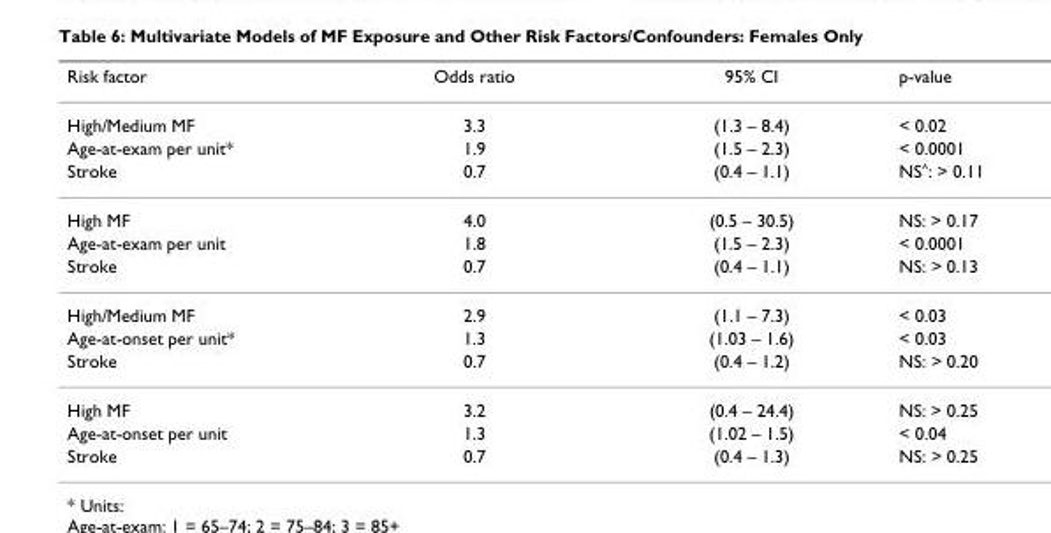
<table><thead><tr><td>Risk factor</td><td>Odds ratio</td><td>95% CI</td><td>p-value</td></tr></thead><tbody><tr><td>High/Medium MF</td><td>3.3</td><td>(1.3 – 8.4)</td><td>&lt; 0.02</td></tr><tr><td>Age-at-exam per unit*</td><td>1.9</td><td>(1.5 – 2.3)</td><td>&lt; 0.0001</td></tr><tr><td>Stroke</td><td>0.7</td><td>(0.4 – 1.1)</td><td>NS<sup>^</sup>: &gt; 0.11</td></tr><tr><td>High MF</td><td>4.0</td><td>(0.5 – 30.5)</td><td>NS: &gt; 0.17</td></tr><tr><td>Age-at-exam per unit</td><td>1.8</td><td>(1.5 – 2.3)</td><td>&lt; 0.0001</td></tr><tr><td>Stroke</td><td>0.7</td><td>(0.4 – 1.1)</td><td>NS: &gt; 0.13</td></tr><tr><td>High/Medium MF</td><td>2.9</td><td>(1.1 – 7.3)</td><td>&lt; 0.03</td></tr><tr><td>Age-at-onset per unit*</td><td>1.3</td><td>(1.03 – 1.6)</td><td>&lt; 0.03</td></tr><tr><td>Stroke</td><td>0.7</td><td>(0.4 – 1.2)</td><td>NS: &gt; 0.20</td></tr><tr><td>High MF</td><td>3.2</td><td>(0.4 – 24.4)</td><td>NS: &gt; 0.25</td></tr><tr><td>Age-at-onset per unit</td><td>1.3</td><td>(1.02 – 1.5)</td><td>&lt; 0.04</td></tr><tr><td>Stroke</td><td>0.7</td><td>(0.4 – 1.3)</td><td>NS: &gt; 0.25</td></tr></tbody></table>